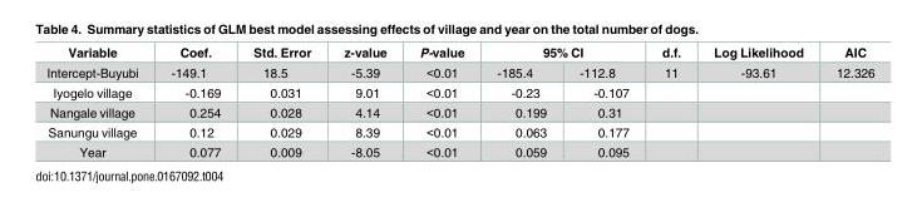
<table><thead><tr><td rowspan="2">Variable Intercept-Buyubi</td><td rowspan="2">Coef. -149.1</td><td rowspan="2">Std. Error 18.5</td><td rowspan="2">z-value -5.39</td><td rowspan="2">P-value &lt;0.01</td><td colspan="2">95% CI</td><td rowspan="2">d.f. 11</td><td rowspan="2">Log Likelihood -93.61</td><td rowspan="2">AIC 12.326</td></tr><tr><td>-185.4</td><td>-112.8</td></tr></thead><tbody><tr><td>Iyogelo village</td><td>-0.169</td><td>0.031</td><td>9.01</td><td>&lt;0.01</td><td>-0.23</td><td>-0.107</td><td></td><td></td><td></td></tr><tr><td>Nangale village</td><td>0.254</td><td>0.028</td><td>4.14</td><td>&lt;0.01</td><td>0.199</td><td>0.31</td><td></td><td></td><td></td></tr><tr><td>Sanungu village</td><td>0.12</td><td>0.029</td><td>8.39</td><td>&lt;0.01</td><td>0.063</td><td>0.177</td><td></td><td></td><td></td></tr><tr><td>Year</td><td>0.077</td><td>0.009</td><td>-8.05</td><td>&lt;0.01</td><td>0.059</td><td>0.095</td><td></td><td></td><td></td></tr></tbody></table>